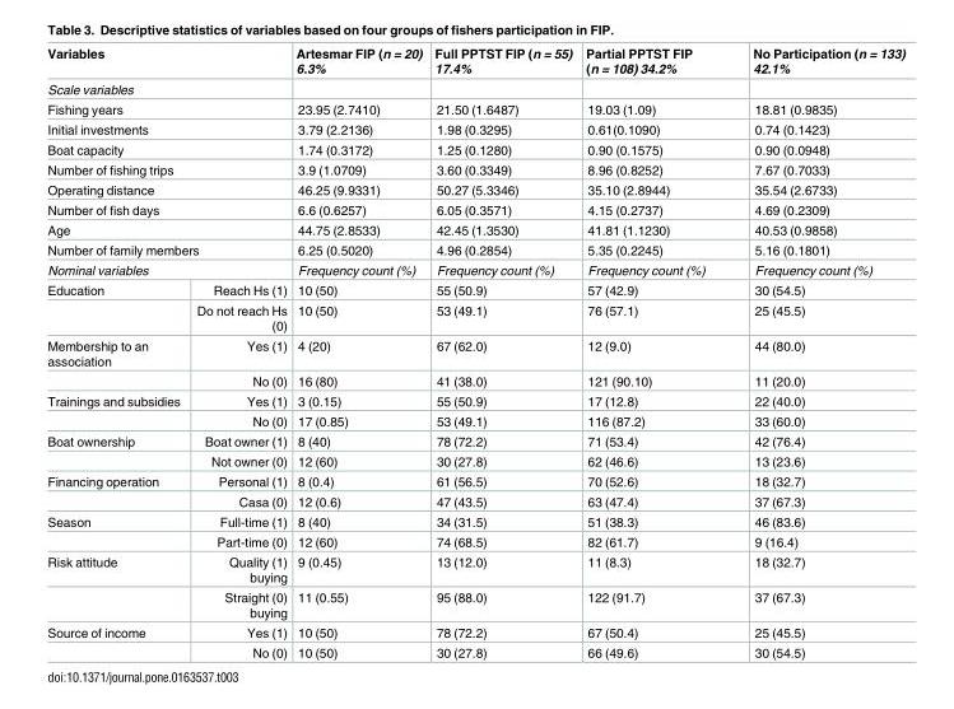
<table><thead><tr><td colspan="2">Variables</td><td>Artesmar FIP (n = 20) 6.3%</td><td>Full PPTST FIP (n = 55) 17.4%</td><td>Partial PPTST FIP (n = 108) 34.2%</td><td>No Participation (n = 133) 42.1%</td></tr></thead><tbody><tr><td colspan="6">Scale variables</td></tr><tr><td colspan="2">Fishing years</td><td>23.95 (2.7410)</td><td>21.50 (1.6487)</td><td>19.03 (1.09)</td><td>18.81 (0.9835)</td></tr><tr><td colspan="2">Initial investments</td><td>3.79 (2.2136)</td><td>1.98 (0.3295)</td><td>0.61(0.1090)</td><td>0.74 (0.1423)</td></tr><tr><td colspan="2">Boat capacity</td><td>1.74 (0.3172)</td><td>1.25 (0.1280)</td><td>0.90 (0.1575)</td><td>0.90 (0.0948)</td></tr><tr><td colspan="2">Number of fishing trips</td><td>3.9 (1.0709)</td><td>3.60 (0.3349)</td><td>8.96 (0.8252)</td><td>7.67 (0.7033)</td></tr><tr><td colspan="2">Operating distance</td><td>46.25 (9.9331)</td><td>50.27 (5.3346)</td><td>35.10 (2.8944)</td><td>35.54 (2.6733)</td></tr><tr><td colspan="2">Number of fish days</td><td>6.6 (0.6257)</td><td>6.05 (0.3571)</td><td>4.15 (0.2737)</td><td>4.69 (0.2309)</td></tr><tr><td colspan="2">Age</td><td>44.75 (2.8533)</td><td>42.45 (1.3530)</td><td>41.81 (1.1230)</td><td>40.53 (0.9858)</td></tr><tr><td colspan="2">Number of family members</td><td>6.25 (0.5020)</td><td>4.96 (0.2854)</td><td>5.35 (0.2245)</td><td>5.16 (0.1801)</td></tr><tr><td colspan="2">Nominal variables</td><td>Frequency count (%)</td><td>Frequency count (%)</td><td>Frequency count (%)</td><td>Frequency count (%)</td></tr><tr><td rowspan="2">Education</td><td>Reach Hs (1)</td><td>10 (50)</td><td>55 (50.9)</td><td>57 (42.9)</td><td>30 (54.5)</td></tr><tr><td>Do not reach Hs (0)</td><td>10 (50)</td><td>53 (49.1)</td><td>76 (57.1)</td><td>25 (45.5)</td></tr><tr><td rowspan="2">Membership to an association</td><td>Yes (1)</td><td>4 (20)</td><td>67 (62.0)</td><td>12 (9.0)</td><td>44 (80.0)</td></tr><tr><td>No (0)</td><td>16 (80)</td><td>41 (38.0)</td><td>121 (90.10)</td><td>11 (20.0)</td></tr><tr><td rowspan="2">Trainings and subsidies</td><td>Yes (1)</td><td>3 (0.15)</td><td>55 (50.9)</td><td>17 (12.8)</td><td>22 (40.0)</td></tr><tr><td>No (0)</td><td>17 (0.85)</td><td>53 (49.1)</td><td>116 (87.2)</td><td>33 (60.0)</td></tr><tr><td rowspan="2">Boat ownership</td><td>Boat owner (1)</td><td>8 (40)</td><td>78 (72.2)</td><td>71 (53.4)</td><td>42 (76.4)</td></tr><tr><td>Not owner (0)</td><td>12 (60)</td><td>30 (27.8)</td><td>62 (46.6)</td><td>13 (23.6)</td></tr><tr><td rowspan="2">Financing operation</td><td>Personal (1)</td><td>8 (0.4)</td><td>61 (56.5)</td><td>70 (52.6)</td><td>18 (32.7)</td></tr><tr><td>Casa (0)</td><td>12 (0.6)</td><td>47 (43.5)</td><td>63 (47.4)</td><td>37 (67.3)</td></tr><tr><td rowspan="2">Season</td><td>Full-time (1)</td><td>8 (40)</td><td>34 (31.5)</td><td>51 (38.3)</td><td>46 (83.6)</td></tr><tr><td>Part-time (0)</td><td>12 (60)</td><td>74 (68.5)</td><td>82 (61.7)</td><td>9 (16.4)</td></tr><tr><td rowspan="2">Risk attitude</td><td>Quality (1) buying</td><td>9 (0.45)</td><td>13 (12.0)</td><td>11 (8.3)</td><td>18 (32.7)</td></tr><tr><td>Straight (0) buying</td><td>11 (0.55)</td><td>95 (88.0)</td><td>122 (91.7)</td><td>37 (67.3)</td></tr><tr><td rowspan="2">Source of income</td><td>Yes (1)</td><td>10 (50)</td><td>78 (72.2)</td><td>67 (50.4)</td><td>25 (45.5)</td></tr><tr><td>No (0)</td><td>10 (50)</td><td>30 (27.8)</td><td>66 (49.6)</td><td>30 (54.5)</td></tr></tbody></table>